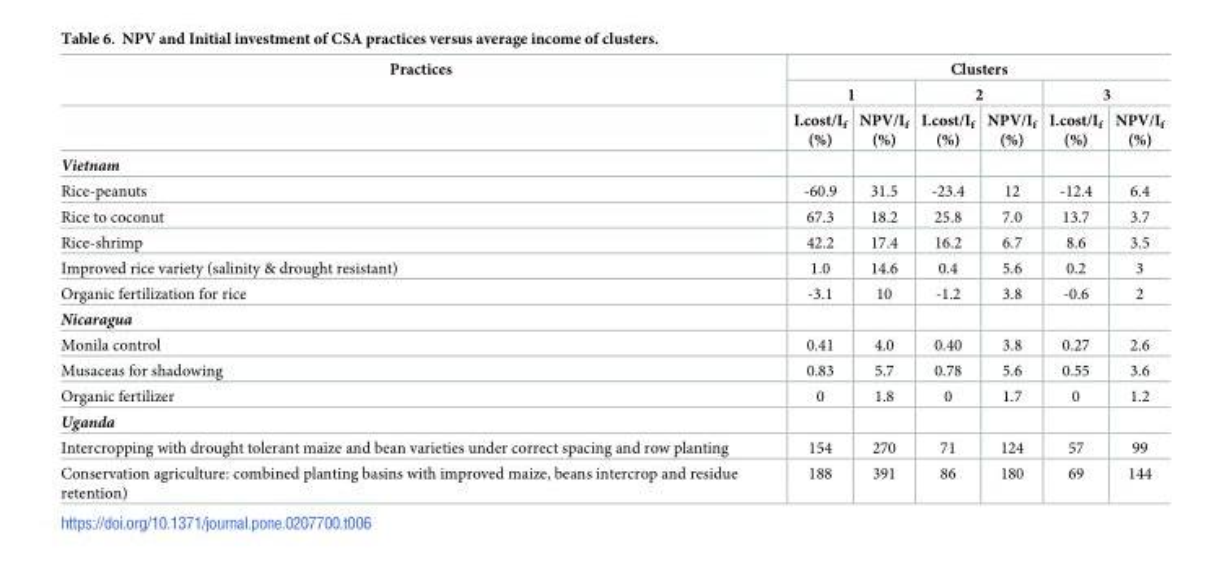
<table><thead><tr><td rowspan="3">Practices</td><td colspan="6">Clusters</td></tr><tr><td colspan="2">1</td><td colspan="2">2</td><td colspan="2">3</td></tr><tr><td>I.cost/I<sub>f</sub> (%)</td><td>NPV/I<sub>f</sub> (%)</td><td>I.cost/I<sub>f</sub> (%)</td><td>NPV/I<sub>f</sub> (%)</td><td>I.cost/I<sub>f</sub> (%)</td><td>NPV/I<sub>f</sub> (%)</td></tr></thead><tbody><tr><td colspan="7">Vietnam</td></tr><tr><td>Rice-peanuts</td><td>-60.9</td><td>31.5</td><td>-23.4</td><td>12</td><td>-12.4</td><td>6.4</td></tr><tr><td>Rice to coconut</td><td>67.3</td><td>18.2</td><td>25.8</td><td>7.0</td><td>13.7</td><td>3.7</td></tr><tr><td>Rice-shrimp</td><td>42.2</td><td>17.4</td><td>16.2</td><td>6.7</td><td>8.6</td><td>3.5</td></tr><tr><td>Improved rice variety (salinity &amp; drought resistant)</td><td>1.0</td><td>14.6</td><td>0.4</td><td>5.6</td><td>0.2</td><td>3</td></tr><tr><td>Organic fertilization for rice</td><td>-3.1</td><td>10</td><td>-1.2</td><td>3.8</td><td>-0.6</td><td>2</td></tr><tr><td colspan="7">Nicaragua</td></tr><tr><td>Monila control</td><td>0.41</td><td>4.0</td><td>0.40</td><td>3.8</td><td>0.27</td><td>2.6</td></tr><tr><td>Musaceas for shadowing</td><td>0.83</td><td>5.7</td><td>0.78</td><td>5.6</td><td>0.55</td><td>3.6</td></tr><tr><td>Organic fertilizer</td><td>0</td><td>1.8</td><td>0</td><td>1.7</td><td>0</td><td>1.2</td></tr><tr><td colspan="7">Uganda</td></tr><tr><td>Intercropping with drought tolerant maize and bean varieties under correct spacing and row planting</td><td>154</td><td>270</td><td>71</td><td>124</td><td>57</td><td>99</td></tr><tr><td>Conservation agriculture: combined planting basins with improved maize, beans intercrop and residue retention)</td><td>188</td><td>391</td><td>86</td><td>180</td><td>69</td><td>144</td></tr></tbody></table>